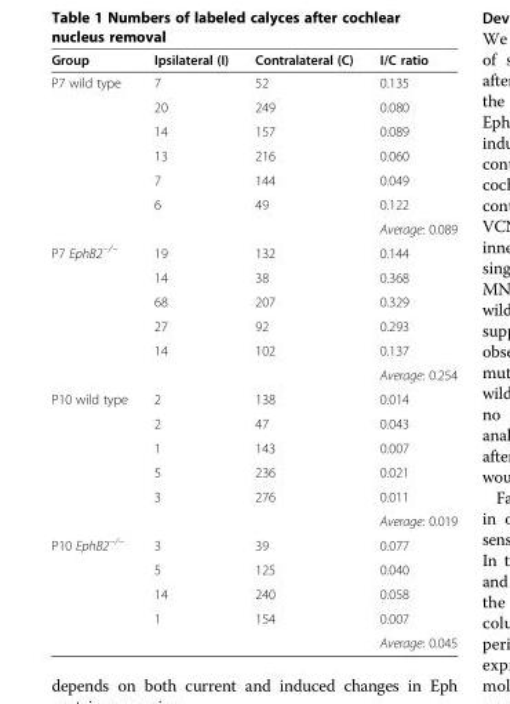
<table><thead><tr><td>Group</td><td>Ipsilateral (I)</td><td>Contralateral (C)</td><td>I/C ratio</td></tr></thead><tbody><tr><td rowspan="7">P7 wild type</td><td>7</td><td>52</td><td>0.135</td></tr><tr><td>20</td><td>249</td><td>0.080</td></tr><tr><td>14</td><td>157</td><td>0.089</td></tr><tr><td>13</td><td>216</td><td>0.060</td></tr><tr><td>7</td><td>144</td><td>0.049</td></tr><tr><td>6</td><td>49</td><td>0.122</td></tr><tr><td></td><td></td><td>Average: 0.089</td></tr><tr><td rowspan="6">P7 EphB2<sup>−/−</sup></td><td>19</td><td>132</td><td>0.144</td></tr><tr><td>14</td><td>38</td><td>0.368</td></tr><tr><td>68</td><td>207</td><td>0.329</td></tr><tr><td>27</td><td>92</td><td>0.293</td></tr><tr><td>14</td><td>102</td><td>0.137</td></tr><tr><td></td><td></td><td>Average: 0.254</td></tr><tr><td rowspan="6">P10 wild type</td><td>2</td><td>138</td><td>0.014</td></tr><tr><td>2</td><td>47</td><td>0.043</td></tr><tr><td>1</td><td>143</td><td>0.007</td></tr><tr><td>5</td><td>236</td><td>0.021</td></tr><tr><td>3</td><td>276</td><td>0.011</td></tr><tr><td></td><td></td><td>Average: 0.019</td></tr><tr><td rowspan="5">P10 EphB2<sup>−/−</sup></td><td>3</td><td>39</td><td>0.077</td></tr><tr><td>5</td><td>125</td><td>0.040</td></tr><tr><td>14</td><td>240</td><td>0.058</td></tr><tr><td>1</td><td>154</td><td>0.007</td></tr><tr><td></td><td></td><td>Average: 0.045</td></tr></tbody></table>